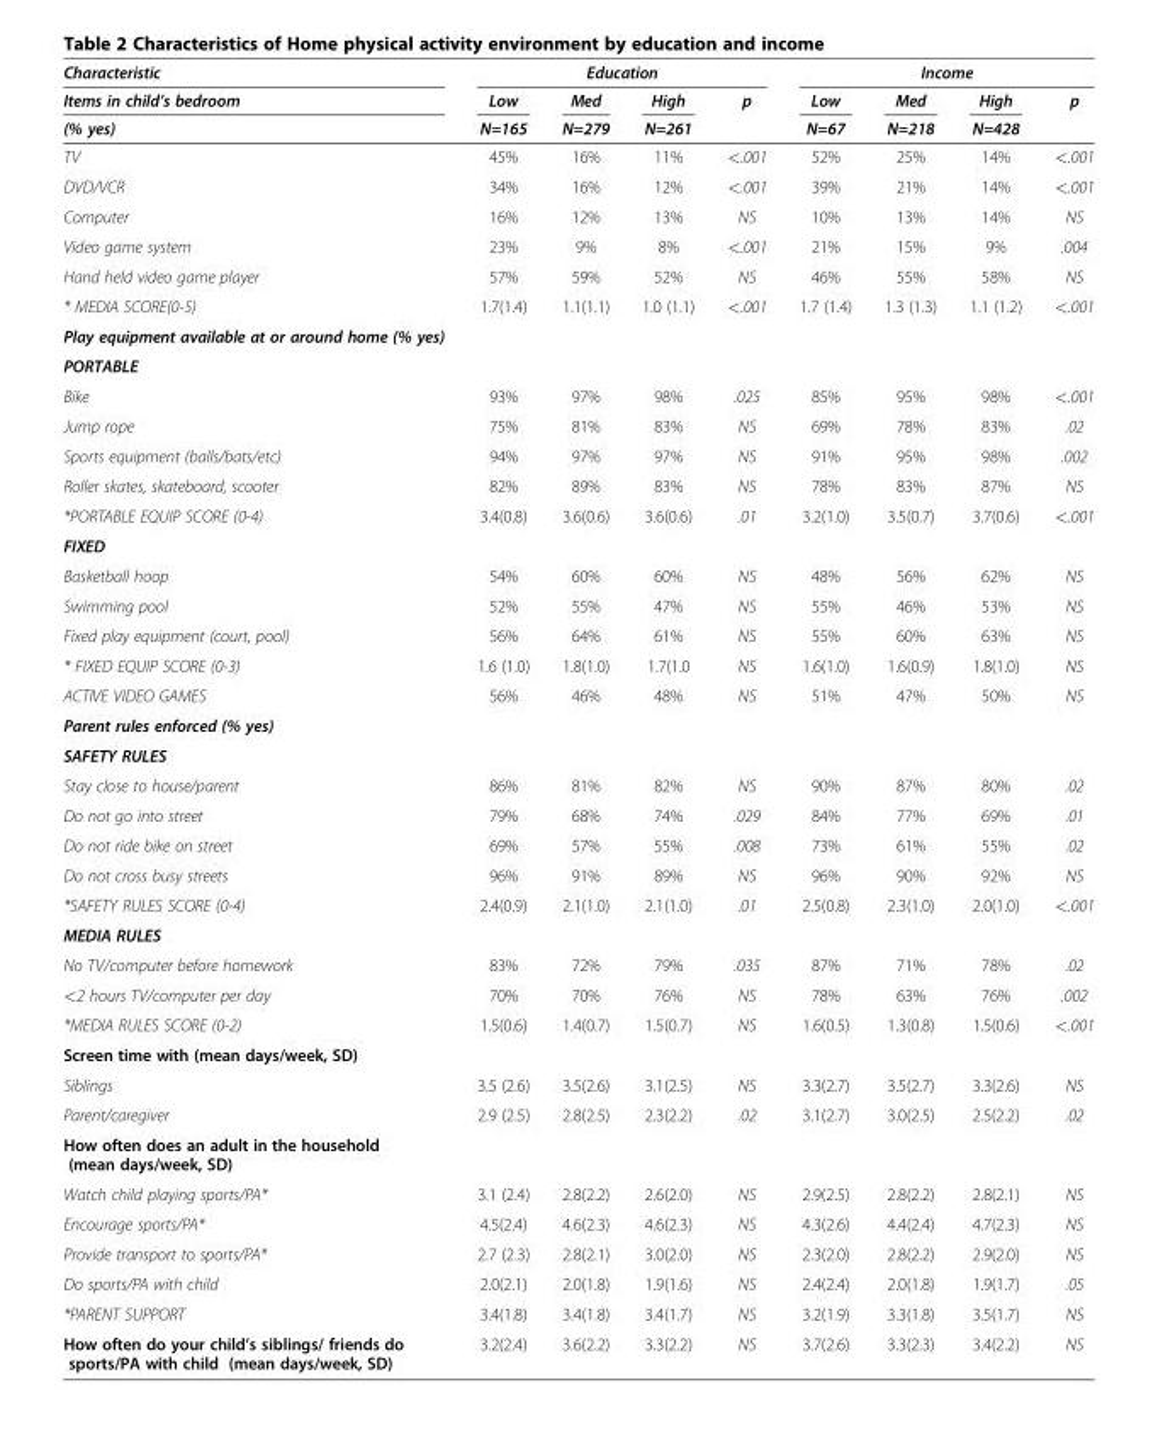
<table><thead><tr><td rowspan="3">Characteristic Items in child’s bedroom (% yes)</td><td colspan="4">Education</td><td colspan="4">Income</td></tr><tr><td rowspan="2">Low N=165</td><td rowspan="2">Med N=279</td><td rowspan="2">High N=261</td><td rowspan="2">p</td><td rowspan="2">Low N=67</td><td rowspan="2">Med N=218</td><td rowspan="2">High N=428</td><td rowspan="2">p</td></tr><tr></tr></thead><tbody><tr><td>TV</td><td>45%</td><td>16%</td><td>11%</td><td>&lt;.001</td><td>52%</td><td>25%</td><td>14%</td><td>&lt;.001</td></tr><tr><td>DVD/VCR</td><td>34%</td><td>16%</td><td>12%</td><td>&lt;.001</td><td>39%</td><td>21%</td><td>14%</td><td>&lt;.001</td></tr><tr><td>Computer</td><td>16%</td><td>12%</td><td>13%</td><td>NS</td><td>10%</td><td>13%</td><td>14%</td><td>NS</td></tr><tr><td>Video game system</td><td>23%</td><td>9%</td><td>8%</td><td>&lt;.001</td><td>21%</td><td>15%</td><td>9%</td><td>.004</td></tr><tr><td>Hand held video game player</td><td>57%</td><td>59%</td><td>52%</td><td>NS</td><td>46%</td><td>55%</td><td>58%</td><td>NS</td></tr><tr><td>* MEDIA SCORE(0-5)</td><td>1.7(1.4)</td><td>1.1(1.1)</td><td>1.0 (1.1)</td><td>&lt;.001</td><td>1.7 (1.4)</td><td>1.3 (1.3)</td><td>1.1 (1.2)</td><td>&lt;.001</td></tr><tr><td colspan="9">Play equipment available at or around home (% yes)</td></tr><tr><td colspan="9">PORTABLE</td></tr><tr><td>Bike</td><td>93%</td><td>97%</td><td>98%</td><td>.025</td><td>85%</td><td>95%</td><td>98%</td><td>&lt;.001</td></tr><tr><td>Jump rope</td><td>75%</td><td>81%</td><td>83%</td><td>NS</td><td>69%</td><td>78%</td><td>83%</td><td>.02</td></tr><tr><td>Sports equipment (balls/bats/etc)</td><td>94%</td><td>97%</td><td>97%</td><td>NS</td><td>91%</td><td>95%</td><td>98%</td><td>.002</td></tr><tr><td>Roller skates, skateboard, scooter</td><td>82%</td><td>89%</td><td>83%</td><td>NS</td><td>78%</td><td>83%</td><td>87%</td><td>NS</td></tr><tr><td>*PORTABLE EQUIP SCORE (0-4)</td><td>3.4(0.8)</td><td>3.6(0.6)</td><td>3.6(0.6)</td><td>.01</td><td>3.2(1.0)</td><td>3.5(0.7)</td><td>3.7(0.6)</td><td>&lt;.001</td></tr><tr><td colspan="9">FIXED</td></tr><tr><td>Basketball hoop</td><td>54%</td><td>60%</td><td>60%</td><td>NS</td><td>48%</td><td>56%</td><td>62%</td><td>NS</td></tr><tr><td>Swimming pool</td><td>52%</td><td>55%</td><td>47%</td><td>NS</td><td>55%</td><td>46%</td><td>53%</td><td>NS</td></tr><tr><td>Fixed play equipment (court, pool)</td><td>56%</td><td>64%</td><td>61%</td><td>NS</td><td>55%</td><td>60%</td><td>63%</td><td>NS</td></tr><tr><td>* FIXED EQUIP SCORE (0-3)</td><td>1.6 (1.0)</td><td>1.8(1.0)</td><td>1.7(1.0</td><td>NS</td><td>1.6(1.0)</td><td>1.6(0.9)</td><td>1.8(1.0)</td><td>NS</td></tr><tr><td>ACTIVE VIDEO GAMES</td><td>56%</td><td>46%</td><td>48%</td><td>NS</td><td>51%</td><td>47%</td><td>50%</td><td>NS</td></tr><tr><td colspan="9">Parent rules enforced (% yes)</td></tr><tr><td colspan="9">SAFETY RULES</td></tr><tr><td>Stay close to house/parent</td><td>86%</td><td>81%</td><td>82%</td><td>NS</td><td>90%</td><td>87%</td><td>80%</td><td>.02</td></tr><tr><td>Do not go into street</td><td>79%</td><td>68%</td><td>74%</td><td>.029</td><td>84%</td><td>77%</td><td>69%</td><td>.01</td></tr><tr><td>Do not ride bike on street</td><td>69%</td><td>57%</td><td>55%</td><td>.008</td><td>73%</td><td>61%</td><td>55%</td><td>.02</td></tr><tr><td>Do not cross busy streets</td><td>96%</td><td>91%</td><td>89%</td><td>NS</td><td>96%</td><td>90%</td><td>92%</td><td>NS</td></tr><tr><td>*SAFETY RULES SCORE (0-4)</td><td>2.4(0.9)</td><td>2.1(1.0)</td><td>2.1(1.0)</td><td>.01</td><td>2.5(0.8)</td><td>2.3(1.0)</td><td>2.0(1.0)</td><td>&lt;.001</td></tr><tr><td colspan="9">MEDIA RULES</td></tr><tr><td>No TV/computer before homework</td><td>83%</td><td>72%</td><td>79%</td><td>.035</td><td>87%</td><td>71%</td><td>78%</td><td>.02</td></tr><tr><td>&lt;2 hours TV/computer per day</td><td>70%</td><td>70%</td><td>76%</td><td>NS</td><td>78%</td><td>63%</td><td>76%</td><td>.002</td></tr><tr><td>*MEDIA RULES SCORE (0-2)</td><td>1.5(0.6)</td><td>1.4(0.7)</td><td>1.5(0.7)</td><td>NS</td><td>1.6(0.5)</td><td>1.3(0.8)</td><td>1.5(0.6)</td><td>&lt;.001</td></tr><tr><td colspan="9">Screen time with (mean days/week, SD)</td></tr><tr><td>Siblings</td><td>3.5 (2.6)</td><td>3.5(2.6)</td><td>3.1(2.5)</td><td>NS</td><td>3.3(2.7)</td><td>3.5(2.7)</td><td>3.3(2.6)</td><td>NS</td></tr><tr><td>Parent/caregiver</td><td>2.9 (2.5)</td><td>2.8(2.5)</td><td>2.3(2.2)</td><td>.02</td><td>3.1(2.7)</td><td>3.0(2.5)</td><td>2.5(2.2)</td><td>.02</td></tr><tr><td colspan="9">How often does an adult in the household (mean days/week, SD)</td></tr><tr><td>Watch child playing sports/PA*</td><td>3.1 (2.4)</td><td>2.8(2.2)</td><td>2.6(2.0)</td><td>NS</td><td>2.9(2.5)</td><td>2.8(2.2)</td><td>2.8(2.1)</td><td>NS</td></tr><tr><td>Encourage sports/PA*</td><td>4.5(2.4)</td><td>4.6(2.3)</td><td>4.6(2.3)</td><td>NS</td><td>4.3(2.6)</td><td>4.4(2.4)</td><td>4.7(2.3)</td><td>NS</td></tr><tr><td>Provide transport to sports/PA*</td><td>2.7 (2.3)</td><td>2.8(2.1)</td><td>3.0(2.0)</td><td>NS</td><td>2.3(2.0)</td><td>2.8(2.2)</td><td>2.9(2.0)</td><td>NS</td></tr><tr><td>Do sports/PA with child</td><td>2.0(2.1)</td><td>2.0(1.8)</td><td>1.9(1.6)</td><td>NS</td><td>2.4(2.4)</td><td>2.0(1.8)</td><td>1.9(1.7)</td><td>.05</td></tr><tr><td>*PARENT SUPPORT</td><td>3.4(1.8)</td><td>3.4(1.8)</td><td>3.4(1.7)</td><td>NS</td><td>3.2(1.9)</td><td>3.3(1.8)</td><td>3.5(1.7)</td><td>NS</td></tr><tr><td>How often do your child’s siblings/ friends do sports/PA with child (mean days/week, SD)</td><td>3.2(2.4)</td><td>3.6(2.2)</td><td>3.3(2.2)</td><td>NS</td><td>3.7(2.6)</td><td>3.3(2.3)</td><td>3.4(2.2)</td><td>NS</td></tr></tbody></table>